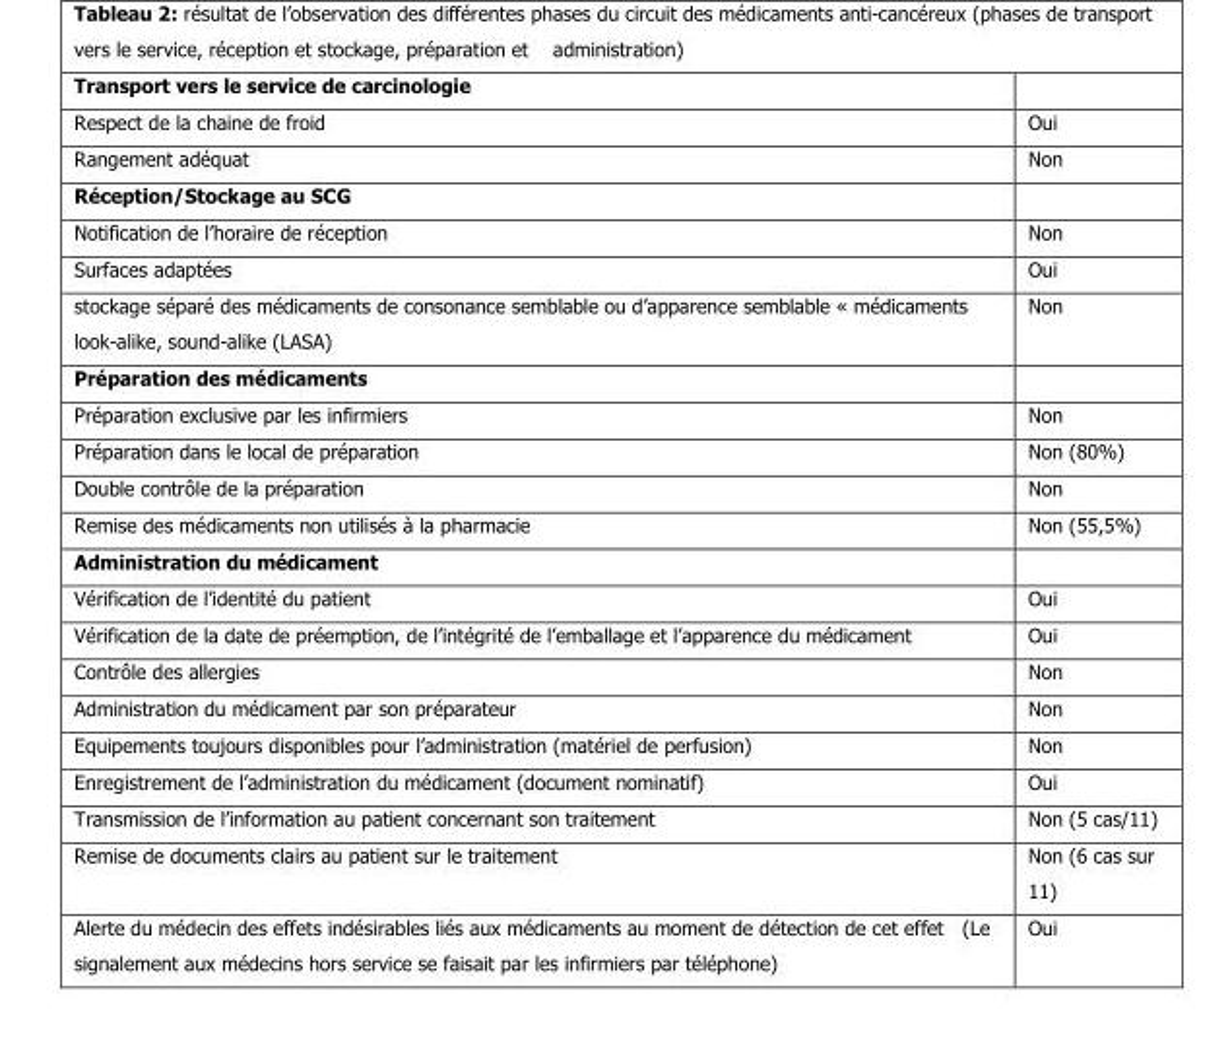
<table><tbody><tr><td colspan="2">Transport vers le service de carcinologie</td></tr><tr><td>Respect de la chaine de froid</td><td>Oui</td></tr><tr><td>Rangement adéquat</td><td>Non</td></tr><tr><td colspan="2">Réception/Stockage au SCG</td></tr><tr><td>Notification de l’horaire de réception</td><td>Non</td></tr><tr><td>Surfaces adaptées</td><td>Oui</td></tr><tr><td>stockage séparé des médicaments de consonance semblable ou d’apparence semblable « médicaments look-alike, sound-alike (LASA)</td><td>Non</td></tr><tr><td colspan="2">Préparation des médicaments</td></tr><tr><td>Préparation exclusive par les infirmiers</td><td>Non</td></tr><tr><td>Préparation dans le local de préparation</td><td>Non (80%)</td></tr><tr><td>Double contrôle de la préparation</td><td>Non</td></tr><tr><td>Remise des médicaments non utilisés à la pharmacie</td><td>Non (55,5%)</td></tr><tr><td colspan="2">Administration du médicament</td></tr><tr><td>Vérification de l’identité du patient</td><td>Oui</td></tr><tr><td>Vérification de la date de préemption, de l’intégrité de l’emballage et l’apparence du médicament</td><td>Oui</td></tr><tr><td>Contrôle des allergies</td><td>Non</td></tr><tr><td>Administration du médicament par son préparateur</td><td>Non</td></tr><tr><td>Equipements toujours disponibles pour l’administration (matériel de perfusion)</td><td>Non</td></tr><tr><td>Enregistrement de l’administration du médicament (document nominatif)</td><td>Oui</td></tr><tr><td>Transmission de l’information au patient concernant son traitement</td><td>Non (5 cas/11)</td></tr><tr><td>Remise de documents clairs au patient sur le traitement</td><td>Non (6 cas sur 11)</td></tr><tr><td>Alerte du médecin des effets indésirables liés aux médicaments au moment de détection de cet effet (Le signalement aux médecins hors service se faisait par les infirmiers par téléphone)</td><td>Oui</td></tr></tbody></table>